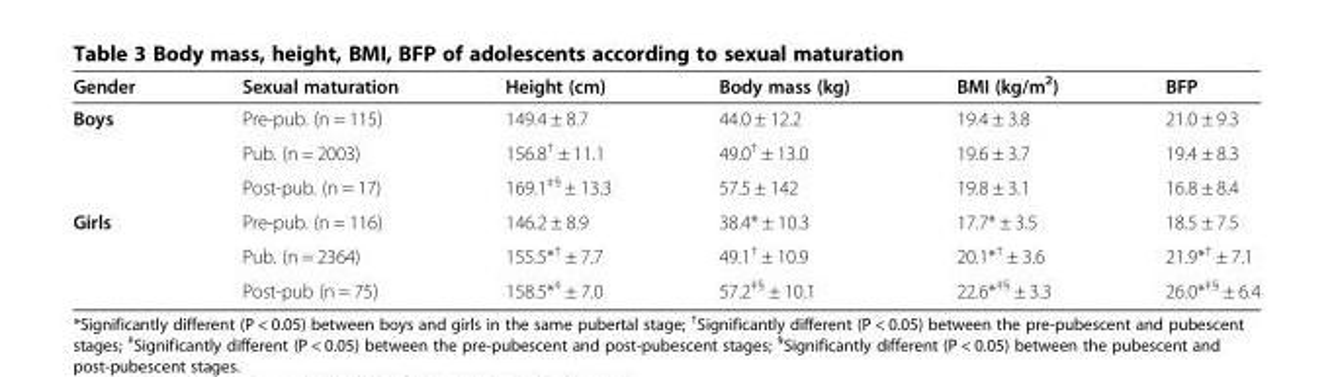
<table><thead><tr><td>Gender</td><td>Sexual maturation</td><td>Height (cm)</td><td>Body mass (kg)</td><td>BMI (kg/m<sup>2</sup>)</td><td>BFP</td></tr></thead><tbody><tr><td rowspan="3">Boys</td><td>Pre-pub. (n = 115)</td><td>149.4 ± 8.7</td><td>44.0 ± 12.2</td><td>19.4 ± 3.8</td><td>21.0 ± 9.3</td></tr><tr><td>Pub. (n = 2003)</td><td>156.8<sup>†</sup> ± 11.1</td><td>49.0<sup>†</sup> ± 13.0</td><td>19.6 ± 3.7</td><td>19.4 ± 8.3</td></tr><tr><td>Post-pub. (n = 17)</td><td>169.1<sup>‡§</sup> ± 13.3</td><td>57.5 ± 142</td><td>19.8 ± 3.1</td><td>16.8 ± 8.4</td></tr><tr><td rowspan="3">Girls</td><td>Pre-pub. (n = 116)</td><td>146.2 ± 8.9</td><td>38.4* ± 10.3</td><td>17.7* ± 3.5</td><td>18.5 ± 7.5</td></tr><tr><td>Pub. (n = 2364)</td><td>155.5*<sup>†</sup> ± 7.7</td><td>49.1<sup>†</sup> ± 10.9</td><td>20.1*<sup>†</sup> ± 3.6</td><td>21.9*<sup>†</sup> ± 7.1</td></tr><tr><td>Post-pub (n = 75)</td><td>158.5*<sup>‡</sup> ± 7.0</td><td>57.2<sup>‡§</sup> ± 10.1</td><td>22.6*<sup>‡§</sup> ± 3.3</td><td>26.0*<sup>‡§</sup> ± 6.4</td></tr></tbody></table>